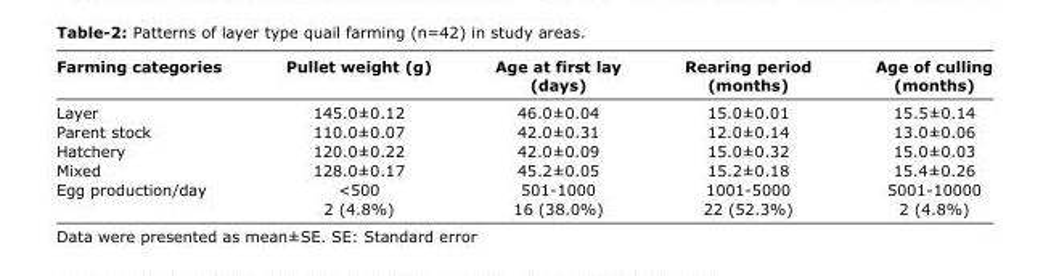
<table><thead><tr><td>Farming categories</td><td>Pullet weight (g)</td><td>Age at first lay (days)</td><td>Rearing period (months)</td><td>Age of culling (months)</td></tr></thead><tbody><tr><td>Layer</td><td>145.0±0.12</td><td>46.0±0.04</td><td>15.0±0.01</td><td>15.5±0.14</td></tr><tr><td>Parent stock</td><td>110.0±0.07</td><td>42.0±0.31</td><td>12.0±0.14</td><td>13.0±0.06</td></tr><tr><td>Hatchery</td><td>120.0±0.22</td><td>42.0±0.09</td><td>15.0±0.32</td><td>15.0±0.03</td></tr><tr><td>Mixed</td><td>128.0±0.17</td><td>45.2±0.05</td><td>15.2±0.18</td><td>15.4±0.26</td></tr><tr><td rowspan="2">Egg production/day</td><td>&lt;500</td><td>501-1000</td><td>1001-5000</td><td>5001-10000</td></tr><tr><td>2 (4.8%)</td><td>16 (38.0%)</td><td>22 (52.3%)</td><td>2 (4.8%)</td></tr></tbody></table>